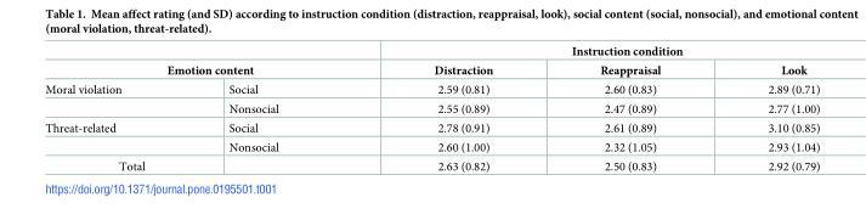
<table><thead><tr><td></td><td></td><td colspan="3">Instruction condition</td></tr><tr><td colspan="2">Emotion content</td><td>Distraction</td><td>Reappraisal</td><td>Look</td></tr></thead><tbody><tr><td rowspan="2">Moral violation</td><td>Social</td><td>2.59 (0.81)</td><td>2.60 (0.83)</td><td>2.89 (0.71)</td></tr><tr><td>Nonsocial</td><td>2.55 (0.89)</td><td>2.47 (0.89)</td><td>2.77 (1.00)</td></tr><tr><td rowspan="2">Threat-related</td><td>Social</td><td>2.78 (0.91)</td><td>2.61 (0.89)</td><td>3.10 (0.85)</td></tr><tr><td>Nonsocial</td><td>2.60 (1.00)</td><td>2.32 (1.05)</td><td>2.93 (1.04)</td></tr><tr><td>Total</td><td></td><td>2.63 (0.82)</td><td>2.50 (0.83)</td><td>2.92 (0.79)</td></tr></tbody></table>